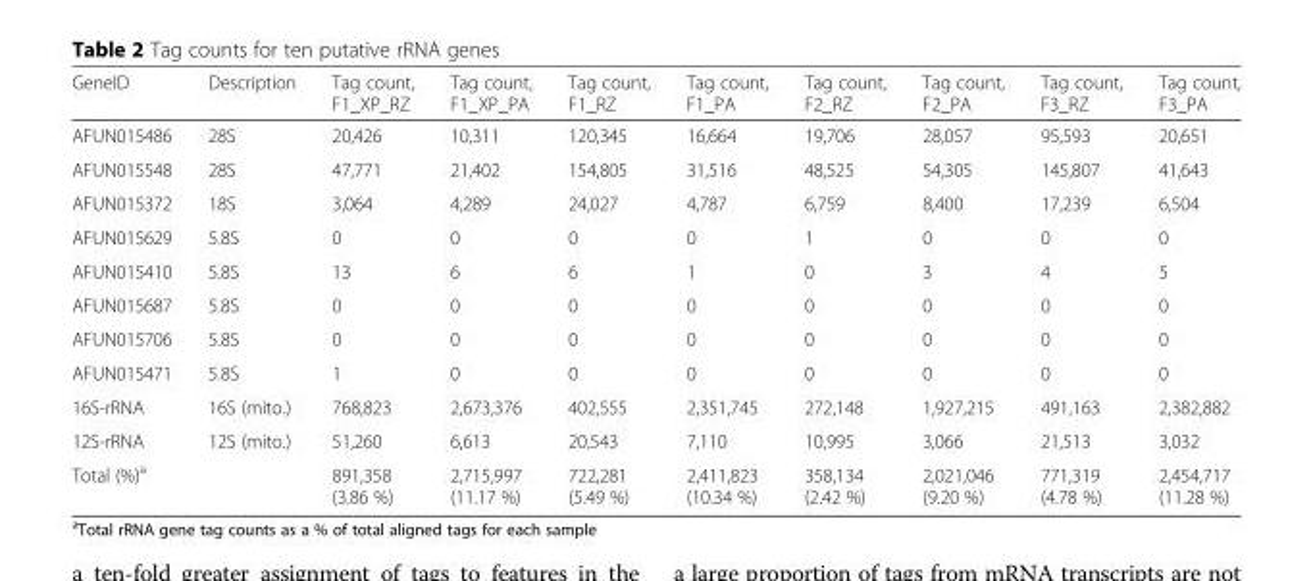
<table><thead><tr><td>GeneID</td><td>Description</td><td>Tag count, F1_XP_RZ</td><td>Tag count, F1_XP_PA</td><td>Tag count, F1_RZ</td><td>Tag count, F1_PA</td><td>Tag count, F2_RZ</td><td>Tag count, F2_PA</td><td>Tag count, F3_RZ</td><td>Tag count, F3_PA</td></tr></thead><tbody><tr><td>AFUN015486</td><td>28S</td><td>20,426</td><td>10,311</td><td>120,345</td><td>16,664</td><td>19,706</td><td>28,057</td><td>95,593</td><td>20,651</td></tr><tr><td>AFUN015548</td><td>28S</td><td>47,771</td><td>21,402</td><td>154,805</td><td>31,516</td><td>48,525</td><td>54,305</td><td>145,807</td><td>41,643</td></tr><tr><td>AFUN015372</td><td>18S</td><td>3,064</td><td>4,289</td><td>24,027</td><td>4,787</td><td>6,759</td><td>8,400</td><td>17,239</td><td>6,504</td></tr><tr><td>AFUN015629</td><td>5.8S</td><td>0</td><td>0</td><td>0</td><td>0</td><td>1</td><td>0</td><td>0</td><td>0</td></tr><tr><td>AFUN015410</td><td>5.8S</td><td>13</td><td>6</td><td>6</td><td>1</td><td>0</td><td>3</td><td>4</td><td>5</td></tr><tr><td>AFUN015687</td><td>5.8S</td><td>0</td><td>0</td><td>0</td><td>0</td><td>0</td><td>0</td><td>0</td><td>0</td></tr><tr><td>AFUN015706</td><td>5.8S</td><td>0</td><td>0</td><td>0</td><td>0</td><td>0</td><td>0</td><td>0</td><td>0</td></tr><tr><td>AFUN015471</td><td>5.8S</td><td>1</td><td>0</td><td>0</td><td>0</td><td>0</td><td>0</td><td>0</td><td>0</td></tr><tr><td>16S-rRNA</td><td>16S (mito.)</td><td>768,823</td><td>2,673,376</td><td>402,555</td><td>2,351,745</td><td>272,148</td><td>1,927,215</td><td>491,163</td><td>2,382,882</td></tr><tr><td>12S-rRNA</td><td>12S (mito.)</td><td>51,260</td><td>6,613</td><td>20,543</td><td>7,110</td><td>10,995</td><td>3,066</td><td>21,513</td><td>3,032</td></tr><tr><td>Total (%)<sup>a</sup></td><td></td><td>891,358 (3.86 %)</td><td>2,715,997 (11.17 %)</td><td>722,281 (5.49 %)</td><td>2,411,823 (10.34 %)</td><td>358,134 (2.42 %)</td><td>2,021,046 (9.20 %)</td><td>771,319 (4.78 %)</td><td>2,454,717 (11.28 %)</td></tr></tbody></table>